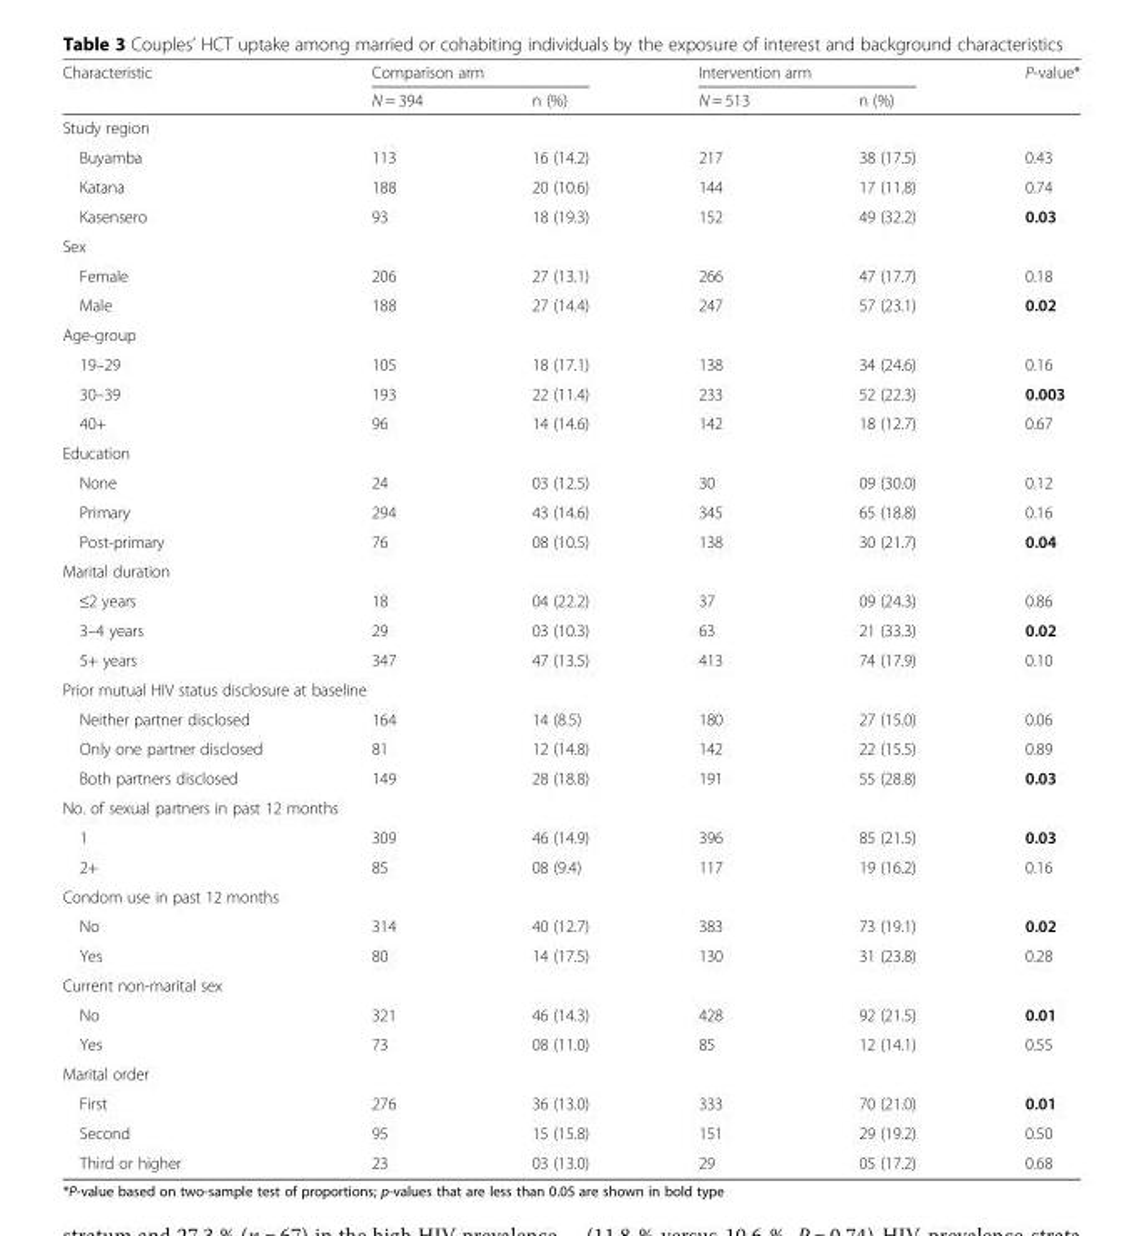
<table><thead><tr><td rowspan="2">Characteristic</td><td colspan="2">Comparison arm</td><td colspan="2">Intervention arm</td><td rowspan="2">P-value*</td></tr><tr><td>N = 394</td><td>n (%)</td><td>N = 513</td><td>n (%)</td></tr></thead><tbody><tr><td colspan="6">Study region</td></tr><tr><td>Buyamba</td><td>113</td><td>16 (14.2)</td><td>217</td><td>38 (17.5)</td><td>0.43</td></tr><tr><td>Katana</td><td>188</td><td>20 (10.6)</td><td>144</td><td>17 (11.8)</td><td>0.74</td></tr><tr><td>Kasensero</td><td>93</td><td>18 (19.3)</td><td>152</td><td>49 (32.2)</td><td>0.03</td></tr><tr><td colspan="6">Sex</td></tr><tr><td>Female</td><td>206</td><td>27 (13.1)</td><td>266</td><td>47 (17.7)</td><td>0.18</td></tr><tr><td>Male</td><td>188</td><td>27 (14.4)</td><td>247</td><td>57 (23.1)</td><td>0.02</td></tr><tr><td colspan="6">Age-group</td></tr><tr><td>19–29</td><td>105</td><td>18 (17.1)</td><td>138</td><td>34 (24.6)</td><td>0.16</td></tr><tr><td>30–39</td><td>193</td><td>22 (11.4)</td><td>233</td><td>52 (22.3)</td><td>0.003</td></tr><tr><td>40+</td><td>96</td><td>14 (14.6)</td><td>142</td><td>18 (12.7)</td><td>0.67</td></tr><tr><td colspan="6">Education</td></tr><tr><td>None</td><td>24</td><td>03 (12.5)</td><td>30</td><td>09 (30.0)</td><td>0.12</td></tr><tr><td>Primary</td><td>294</td><td>43 (14.6)</td><td>345</td><td>65 (18.8)</td><td>0.16</td></tr><tr><td>Post-primary</td><td>76</td><td>08 (10.5)</td><td>138</td><td>30 (21.7)</td><td>0.04</td></tr><tr><td colspan="6">Marital duration</td></tr><tr><td>≤2 years</td><td>18</td><td>04 (22.2)</td><td>37</td><td>09 (24.3)</td><td>0.86</td></tr><tr><td>3–4 years</td><td>29</td><td>03 (10.3)</td><td>63</td><td>21 (33.3)</td><td>0.02</td></tr><tr><td>5+ years</td><td>347</td><td>47 (13.5)</td><td>413</td><td>74 (17.9)</td><td>0.10</td></tr><tr><td colspan="6">Prior mutual HIV status disclosure at baseline</td></tr><tr><td>Neither partner disclosed</td><td>164</td><td>14 (8.5)</td><td>180</td><td>27 (15.0)</td><td>0.06</td></tr><tr><td>Only one partner disclosed</td><td>81</td><td>12 (14.8)</td><td>142</td><td>22 (15.5)</td><td>0.89</td></tr><tr><td>Both partners disclosed</td><td>149</td><td>28 (18.8)</td><td>191</td><td>55 (28.8)</td><td>0.03</td></tr><tr><td colspan="6">No. of sexual partners in past 12 months</td></tr><tr><td>1</td><td>309</td><td>46 (14.9)</td><td>396</td><td>85 (21.5)</td><td>0.03</td></tr><tr><td>2+</td><td>85</td><td>08 (9.4)</td><td>117</td><td>19 (16.2)</td><td>0.16</td></tr><tr><td colspan="6">Condom use in past 12 months</td></tr><tr><td>No</td><td>314</td><td>40 (12.7)</td><td>383</td><td>73 (19.1)</td><td>0.02</td></tr><tr><td>Yes</td><td>80</td><td>14 (17.5)</td><td>130</td><td>31 (23.8)</td><td>0.28</td></tr><tr><td colspan="6">Current non-marital sex</td></tr><tr><td>No</td><td>321</td><td>46 (14.3)</td><td>428</td><td>92 (21.5)</td><td>0.01</td></tr><tr><td>Yes</td><td>73</td><td>08 (11.0)</td><td>85</td><td>12 (14.1)</td><td>0.55</td></tr><tr><td colspan="6">Marital order</td></tr><tr><td>First</td><td>276</td><td>36 (13.0)</td><td>333</td><td>70 (21.0)</td><td>0.01</td></tr><tr><td>Second</td><td>95</td><td>15 (15.8)</td><td>151</td><td>29 (19.2)</td><td>0.50</td></tr><tr><td>Third or higher</td><td>23</td><td>03 (13.0)</td><td>29</td><td>05 (17.2)</td><td>0.68</td></tr></tbody></table>